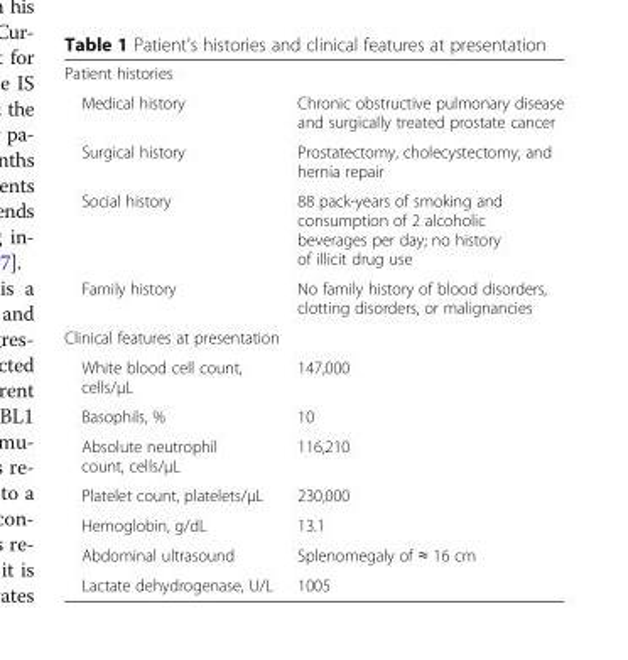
<table><tbody><tr><td colspan="2">Patient histories</td></tr><tr><td>Medical history</td><td>Chronic obstructive pulmonary disease and surgically treated prostate cancer</td></tr><tr><td>Surgical history</td><td>Prostatectomy, cholecystectomy, and hernia repair</td></tr><tr><td>Social history</td><td>88 pack-years of smoking and consumption of 2 alcoholic beverages per day; no history of illicit drug use</td></tr><tr><td>Family history</td><td>No family history of blood disorders, clotting disorders, or malignancies</td></tr><tr><td colspan="2">Clinical features at presentation</td></tr><tr><td>White blood cell count, cells/μL</td><td>147,000</td></tr><tr><td>Basophils, %</td><td>10</td></tr><tr><td>Absolute neutrophil count, cells/μL</td><td>116,210</td></tr><tr><td>Platelet count, platelets/μL</td><td>230,000</td></tr><tr><td>Hemoglobin, g/dL</td><td>13.1</td></tr><tr><td>Abdominal ultrasound</td><td>Splenomegaly of ≈ 16 cm</td></tr><tr><td>Lactate dehydrogenase, U/L</td><td>1005</td></tr></tbody></table>